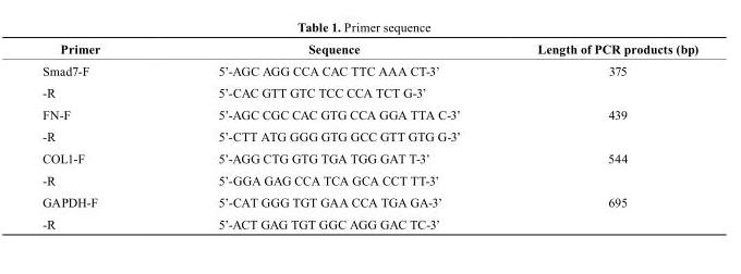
<table><thead><tr><td>Primer</td><td>sequence</td><td>Length of PCR products (bp)</td></tr></thead><tbody><tr><td>Smad7-F</td><td>5’-AGC AGG CCA CAC TTC AAA CT-3’</td><td>375</td></tr><tr><td>-R</td><td>5’-CAC GTT GTC TCC CCA TCT G-3’</td><td></td></tr><tr><td>FN-F</td><td>5’-AGC CGC CAC GTG CCA GGA TTA C-3’</td><td>439</td></tr><tr><td>-R</td><td>5’-CTT ATG GGG GTG GCC GTT GTG G-3’</td><td></td></tr><tr><td>COL1-F</td><td>5’-AGG CTG GTG TGA TGG GAT T-3’</td><td>544</td></tr><tr><td>-R</td><td>5’-GGA GAG CCA TCA GCA CCT TT-3’</td><td></td></tr><tr><td>GAPDH-F</td><td>5’-CAT GGG TGT GAA CCA TGA GA-3’</td><td>695</td></tr><tr><td>-R</td><td>5’-ACT GAG TGT GGC AGG GAC TC-3’</td><td></td></tr></tbody></table>